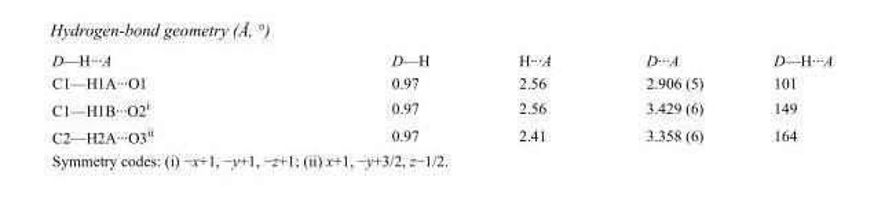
<table><tbody><tr><td>D—H···A</td><td>D—H</td><td>H···A</td><td>D···A</td><td>D—H···A</td></tr><tr><td>C1—H1A···O1</td><td>0.97</td><td>2.56</td><td>2.906 (5)</td><td>101</td></tr><tr><td>C1—H1B···O2<sup>i</sup></td><td>0.97</td><td>2.56</td><td>3.429 (6)</td><td>149</td></tr><tr><td>C2—H2A···O3<sup>ii</sup></td><td>0.97</td><td>2.41</td><td>3.358 (6)</td><td>164</td></tr></tbody></table>